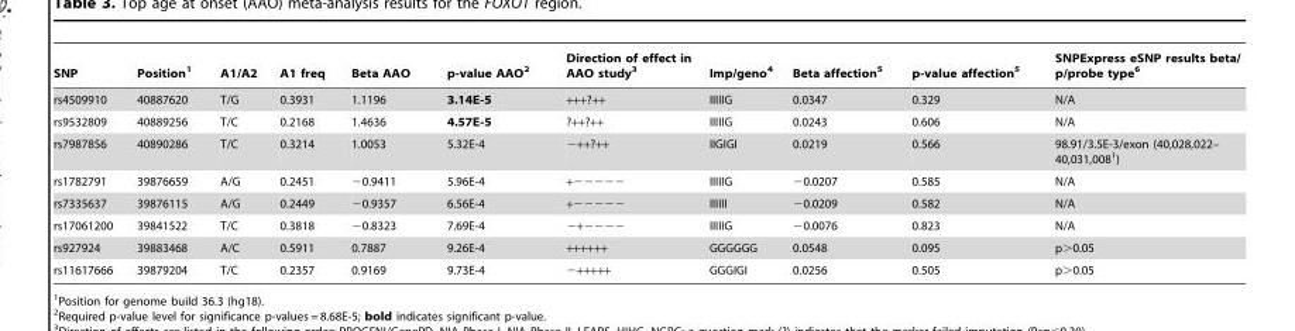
<table><thead><tr><td>SNP</td><td>Position<sup>1</sup></td><td>A1/A2</td><td>A1 freq</td><td>Beta AAO</td><td>p-value AAO<sup>2</sup></td><td>Direction of effect in AAO study<sup>3</sup></td><td>Imp/geno<sup>4</sup></td><td>Beta affection<sup>5</sup></td><td>p-value affection<sup>5</sup></td><td>SNPExpress eSNP results beta/ p/probe type<sup>6</sup></td></tr></thead><tbody><tr><td>rs4509910</td><td>40887620</td><td>T/G</td><td>0.3931</td><td>1.1196</td><td>3.14E-5</td><td>+++?++</td><td>IIIIIG</td><td>0.0347</td><td>0.329</td><td>N/A</td></tr><tr><td>rs9532809</td><td>40889256</td><td>T/C</td><td>0.2168</td><td>1.4636</td><td>4.57E-5</td><td>?++?++</td><td>IIIIIG</td><td>0.0243</td><td>0.606</td><td>N/A</td></tr><tr><td>rs7987856</td><td>40890286</td><td>T/C</td><td>0.3214</td><td>1.0053</td><td>5.32E-4</td><td>−++?++</td><td>IIGIGI</td><td>0.0219</td><td>0.566</td><td>98.91/3.5E-3/exon (40,028,022– 40,031,008<sup>1</sup>)</td></tr><tr><td>rs1782791</td><td>39876659</td><td>A/G</td><td>0.2451</td><td>−0.9411</td><td>5.96E-4</td><td>+−−−−−</td><td>IIIIIG</td><td>−0.0207</td><td>0.585</td><td>N/A</td></tr><tr><td>rs7335637</td><td>39876115</td><td>A/G</td><td>0.2449</td><td>−0.9357</td><td>6.56E-4</td><td>+−−−−−</td><td>IIIIII</td><td>−0.0209</td><td>0.582</td><td>N/A</td></tr><tr><td>rs17061200</td><td>39841522</td><td>T/C</td><td>0.3818</td><td>−0.8323</td><td>7.69E-4</td><td>−+−−−−</td><td>IIIIIG</td><td>−0.0076</td><td>0.823</td><td>N/A</td></tr><tr><td>rs927924</td><td>39883468</td><td>A/C</td><td>0.5911</td><td>0.7887</td><td>9.26E-4</td><td>++++++</td><td>GGGGGG</td><td>0.0548</td><td>0.095</td><td>p&gt;0.05</td></tr><tr><td>rs11617666</td><td>39879204</td><td>T/C</td><td>0.2357</td><td>0.9169</td><td>9.73E-4</td><td>−+++++</td><td>GGGIGI</td><td>0.0256</td><td>0.505</td><td>p&gt;0.05</td></tr></tbody></table>